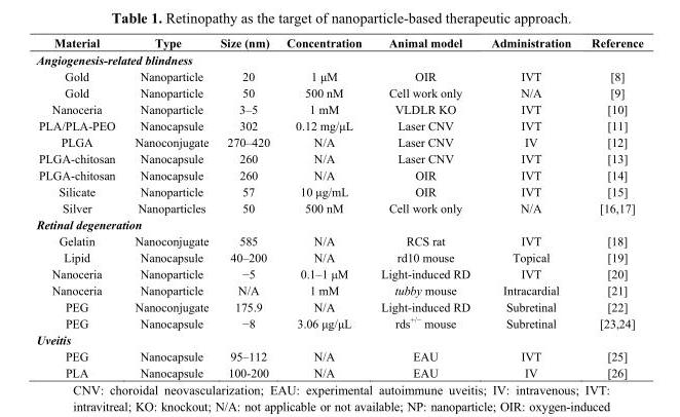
<table><thead><tr><td>Material</td><td>Type</td><td>Size (nm)</td><td>Concentration</td><td>Animal model</td><td>Administration</td><td>Reference</td></tr></thead><tbody><tr><td colspan="7">Angiogenesis-related blindness</td></tr><tr><td>Gold</td><td>Nanoparticle</td><td>20</td><td>1 μM</td><td>OIR</td><td>IVT</td><td>[8]</td></tr><tr><td>Gold</td><td>Nanoparticle</td><td>50</td><td>500 nM</td><td>Cell work only</td><td>N/A</td><td>[9]</td></tr><tr><td>Nanoceria</td><td>Nanoparticle</td><td>3–5</td><td>1 mM</td><td>VLDLR KO</td><td>IVT</td><td>[10]</td></tr><tr><td>PLA/PLA-PEO</td><td>Nanocapsule</td><td>302</td><td>0.12 mg/μL</td><td>Laser CNV</td><td>IVT</td><td>[11]</td></tr><tr><td>PLGA</td><td>Nanoconjugate</td><td>270–420</td><td>N/A</td><td>Laser CNV</td><td>IV</td><td>[12]</td></tr><tr><td>PLGA-chitosan</td><td>Nanocapsule</td><td>260</td><td>N/A</td><td>Laser CNV</td><td>IVT</td><td>[13]</td></tr><tr><td>PLGA-chitosan</td><td>Nanocapsule</td><td>260</td><td>N/A</td><td>OIR</td><td>IVT</td><td>[14]</td></tr><tr><td>Silicate</td><td>Nanoparticle</td><td>57</td><td>10 μg/mL</td><td>OIR</td><td>IVT</td><td>[15]</td></tr><tr><td>Silver</td><td>Nanoparticles</td><td>50</td><td>500 nM</td><td>Cell work only</td><td>N/A</td><td>[16,17]</td></tr><tr><td colspan="7">Retinal degeneration</td></tr><tr><td>Gelatin</td><td>Nanoconjugate</td><td>585</td><td>N/A</td><td>RCS rat</td><td>IVT</td><td>[18]</td></tr><tr><td>Lipid</td><td>Nanocapsule</td><td>40–200</td><td>N/A</td><td>rd10 mouse</td><td>Topical</td><td>[19]</td></tr><tr><td>Nanoceria</td><td>Nanoparticle</td><td>−5</td><td>0.1–1 μM</td><td>Light-induced RD</td><td>IVT</td><td>[20]</td></tr><tr><td>Nanoceria</td><td>Nanoparticle</td><td>N/A</td><td>1 mM</td><td>tubby mouse</td><td>Intracardial</td><td>[21]</td></tr><tr><td>PEG</td><td>Nanoconjugate</td><td>175.9</td><td>N/A</td><td>Light-induced RD</td><td>Subretinal</td><td>[22]</td></tr><tr><td>PEG</td><td>Nanocapsule</td><td>−8</td><td>3.06 μg/μL</td><td>rds<sup>+/−</sup> mouse</td><td>Subretinal</td><td>[23,24]</td></tr><tr><td colspan="7">Uveitis</td></tr><tr><td>PEG</td><td>Nanocapsule</td><td>95–112</td><td>N/A</td><td>EAU</td><td>IVT</td><td>[25]</td></tr><tr><td>PLA</td><td>Nanocapsule</td><td>100-200</td><td>N/A</td><td>EAU</td><td>IV</td><td>[26]</td></tr></tbody></table>